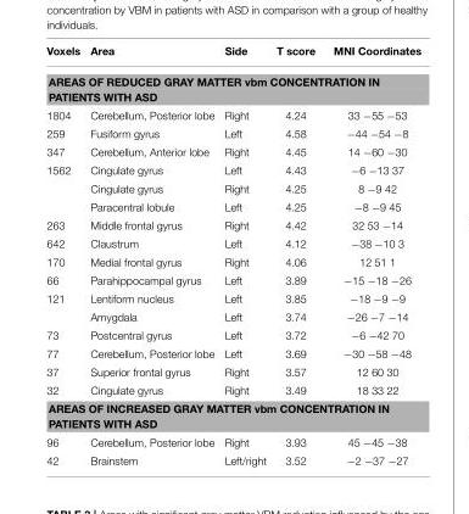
<table><thead><tr><td>Voxels</td><td>Area</td><td>Side</td><td>T score</td><td>MNI Coordinates</td></tr></thead><tbody><tr><td colspan="5">AREAS OF REDUCED GRAY MATTER vbm CONCENTRATION IN PATIENTS WITH ASD</td></tr><tr><td>1804</td><td>Cerebellum, Posterior lobe</td><td>Right</td><td>4.24</td><td>33 −55 −53</td></tr><tr><td>259</td><td>Fusiform gyrus</td><td>Left</td><td>4.58</td><td>−44 −54 −8</td></tr><tr><td>347</td><td>Cerebellum, Anterior lobe</td><td>Right</td><td>4.45</td><td>14 −60 −30</td></tr><tr><td rowspan="3">1562</td><td>Cingulate gyrus</td><td>Left</td><td>4.43</td><td>−6 −13 37</td></tr><tr><td>Cingulate gyrus</td><td>Right</td><td>4.25</td><td>8 −9 42</td></tr><tr><td>Paracentral lobule</td><td>Left</td><td>4.25</td><td>−8 −9 45</td></tr><tr><td>263</td><td>Middle frontal gyrus</td><td>Right</td><td>4.42</td><td>32 53 −14</td></tr><tr><td>642</td><td>Claustrum</td><td>Left</td><td>4.12</td><td>−38 −10 3</td></tr><tr><td>170</td><td>Medial frontal gyrus</td><td>Right</td><td>4.06</td><td>12 51 1</td></tr><tr><td>66</td><td>Parahippocampal gyrus</td><td>Left</td><td>3.89</td><td>−15 −18 −26</td></tr><tr><td rowspan="2">121</td><td>Lentiform nucleus</td><td>Left</td><td>3.85</td><td>−18 −9 −9</td></tr><tr><td>Amygdala</td><td>Left</td><td>3.74</td><td>−26 −7 −14</td></tr><tr><td>73</td><td>Postcentral gyrus</td><td>Left</td><td>3.72</td><td>−6 −42 70</td></tr><tr><td>77</td><td>Cerebellum, Posterior lobe</td><td>Left</td><td>3.69</td><td>−30 −58 −48</td></tr><tr><td>37</td><td>Superior frontal gyrus</td><td>Right</td><td>3.57</td><td>12 60 30</td></tr><tr><td>32</td><td>Cingulate gyrus</td><td>Right</td><td>3.49</td><td>18 33 22</td></tr><tr><td colspan="5">AREAS OF INCREASED GRAY MATTER vbm CONCENTRATION IN PATIENTS WITH ASD</td></tr><tr><td>96</td><td>Cerebellum, Posterior lobe</td><td>Right</td><td>3.93</td><td>45 −45 −38</td></tr><tr><td>42</td><td>Brainstem</td><td>Left/right</td><td>3.52</td><td>−2 −37 −27</td></tr></tbody></table>